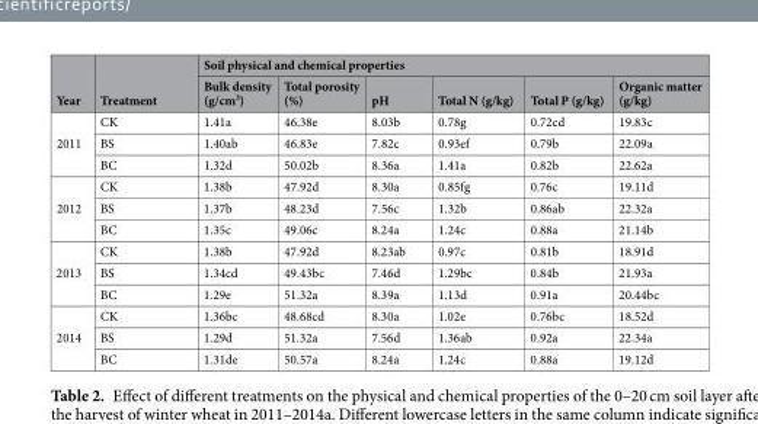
<table><thead><tr><td rowspan="2">Year</td><td rowspan="2">Treatment</td><td colspan="6">Soil physical and chemical properties</td></tr><tr><td>Bulk density (g/cm<sup>3</sup>)</td><td>Total porosity (%)</td><td>pH</td><td>Total N (g/kg)</td><td>Total P (g/kg)</td><td>Organic matter (g/kg)</td></tr></thead><tbody><tr><td rowspan="3">2011</td><td>CK</td><td>1.41a</td><td>46.38e</td><td>8.03b</td><td>0.78g</td><td>0.72cd</td><td>19.83c</td></tr><tr><td>BS</td><td>1.40ab</td><td>46.83e</td><td>7.82c</td><td>0.93ef</td><td>0.79b</td><td>22.09a</td></tr><tr><td>BC</td><td>1.32d</td><td>50.02b</td><td>8.36a</td><td>1.41a</td><td>0.82b</td><td>22.62a</td></tr><tr><td rowspan="3">2012</td><td>CK</td><td>1.38b</td><td>47.92d</td><td>8.30a</td><td>0.85fg</td><td>0.76c</td><td>19.11d</td></tr><tr><td>BS</td><td>1.37b</td><td>48.23d</td><td>7.56c</td><td>1.32b</td><td>0.86ab</td><td>22.32a</td></tr><tr><td>BC</td><td>1.35c</td><td>49.06c</td><td>8.24a</td><td>1.24c</td><td>0.88a</td><td>21.14b</td></tr><tr><td rowspan="3">2013</td><td>CK</td><td>1.38b</td><td>47.92d</td><td>8.23ab</td><td>0.97c</td><td>0.81b</td><td>18.91d</td></tr><tr><td>BS</td><td>1.34cd</td><td>49.43bc</td><td>7.46d</td><td>1.29bc</td><td>0.84b</td><td>21.93a</td></tr><tr><td>BC</td><td>1.29e</td><td>51.32a</td><td>8.39a</td><td>1.13d</td><td>0.91a</td><td>20.44bc</td></tr><tr><td rowspan="3">2014</td><td>CK</td><td>1.36bc</td><td>48.68cd</td><td>8.30a</td><td>1.02e</td><td>0.76bc</td><td>18.52d</td></tr><tr><td>BS</td><td>1.29d</td><td>51.32a</td><td>7.56d</td><td>1.36ab</td><td>0.92a</td><td>22.34a</td></tr><tr><td>BC</td><td>1.31de</td><td>50.57a</td><td>8.24a</td><td>1.24c</td><td>0.88a</td><td>19.12d</td></tr></tbody></table>